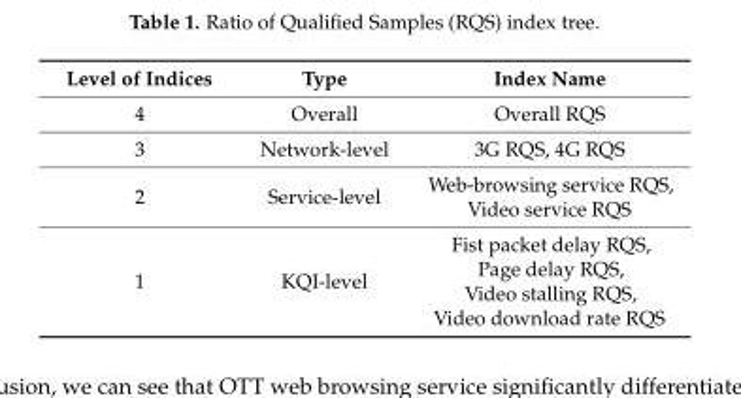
<table><thead><tr><td>Level of Indices</td><td>Type</td><td>Index Name</td></tr></thead><tbody><tr><td>4</td><td>Overall</td><td>Overall RQS</td></tr><tr><td>3</td><td>Network-level</td><td>3G RQS, 4G RQS</td></tr><tr><td>2</td><td>Service-level</td><td>Web-browsing service RQS, Video service RQS</td></tr><tr><td>1</td><td>KQI-level</td><td>Fist packet delay RQS, Page delay RQS, Video stalling RQS, Video download rate RQS</td></tr></tbody></table>